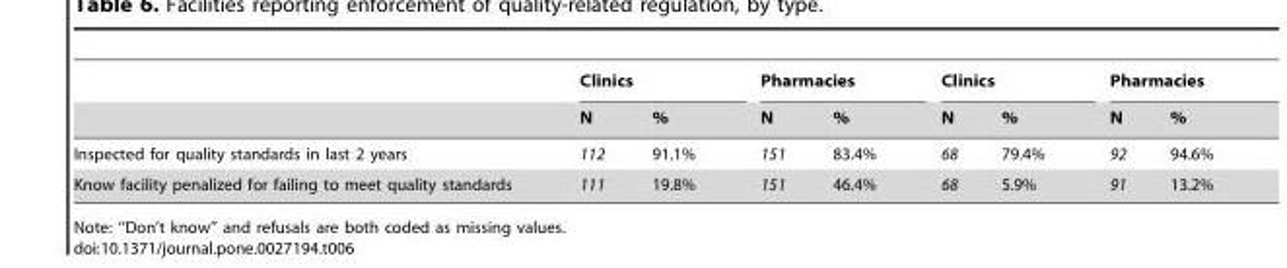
<table><thead><tr><td rowspan="2"></td><td colspan="2">Clinics</td><td colspan="2">Pharmacies</td><td colspan="2">Clinics</td><td colspan="2">Pharmacies</td></tr><tr><td>N</td><td>%</td><td>N</td><td>%</td><td>N</td><td>%</td><td>N</td><td>%</td></tr></thead><tbody><tr><td>Inspected for quality standards in last 2 years</td><td>112</td><td>91.1%</td><td>151</td><td>83.4%</td><td>68</td><td>79.4%</td><td>92</td><td>94.6%</td></tr><tr><td>Know facility penalized for failing to meet quality standards</td><td>111</td><td>19.8%</td><td>151</td><td>46.4%</td><td>68</td><td>5.9%</td><td>91</td><td>13.2%</td></tr></tbody></table>